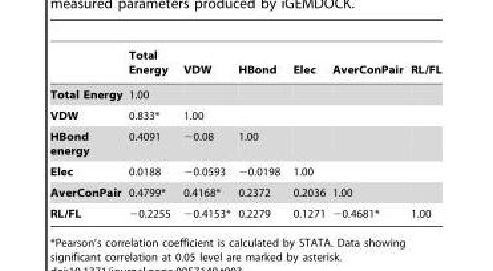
<table><thead><tr><td></td><td>Total Energy</td><td>VDW</td><td>HBond</td><td>Elec</td><td>AverConPair</td><td>RL/FL</td></tr></thead><tbody><tr><td>Total Energy</td><td>1.00</td><td></td><td></td><td></td><td></td><td></td></tr><tr><td>VDW</td><td>0.833*</td><td>1.00</td><td></td><td></td><td></td><td></td></tr><tr><td>HBond energy</td><td>0.4091</td><td>−0.08</td><td>1.00</td><td></td><td></td><td></td></tr><tr><td>Elec</td><td>0.0188</td><td>−0.0593</td><td>−0.0198</td><td>1.00</td><td></td><td></td></tr><tr><td>AverConPair</td><td>0.4799*</td><td>0.4168*</td><td>0.2372</td><td>0.2036</td><td>1.00</td><td></td></tr><tr><td>RL/FL</td><td>−0.2255</td><td>−0.4153*</td><td>0.2279</td><td>0.1271</td><td>−0.4681*</td><td>1.00</td></tr></tbody></table>